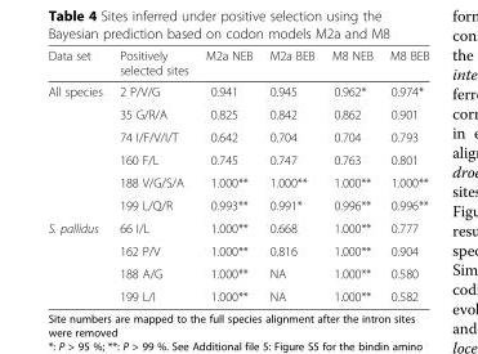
<table><thead><tr><td>Data set</td><td>Positively selected sites</td><td>M2a NEB</td><td>M2a BEB</td><td>M8 NEB</td><td>M8 BEB</td></tr></thead><tbody><tr><td rowspan="6">All species</td><td>2 P/V/G</td><td>0.941</td><td>0.945</td><td>0.962*</td><td>0.974*</td></tr><tr><td>35 G/R/A</td><td>0.825</td><td>0.842</td><td>0.862</td><td>0.901</td></tr><tr><td>74 I/F/V/I/T</td><td>0.642</td><td>0.704</td><td>0.704</td><td>0.793</td></tr><tr><td>160 F/L</td><td>0.745</td><td>0.747</td><td>0.763</td><td>0.801</td></tr><tr><td>188 V/G/S/A</td><td>1.000**</td><td>1.000**</td><td>1.000**</td><td>1.000**</td></tr><tr><td>199 L/Q/R</td><td>0.993**</td><td>0.991*</td><td>0.996**</td><td>0.996**</td></tr><tr><td rowspan="4">S. pallidus</td><td>66 I/L</td><td>1.000**</td><td>0.668</td><td>1.000**</td><td>0.777</td></tr><tr><td>162 P/V</td><td>1.000**</td><td>0.816</td><td>1.000**</td><td>0.904</td></tr><tr><td>188 A/G</td><td>1.000**</td><td>NA</td><td>1.000**</td><td>0.580</td></tr><tr><td>199 L/I</td><td>1.000**</td><td>NA</td><td>1.000**</td><td>0.582</td></tr></tbody></table>